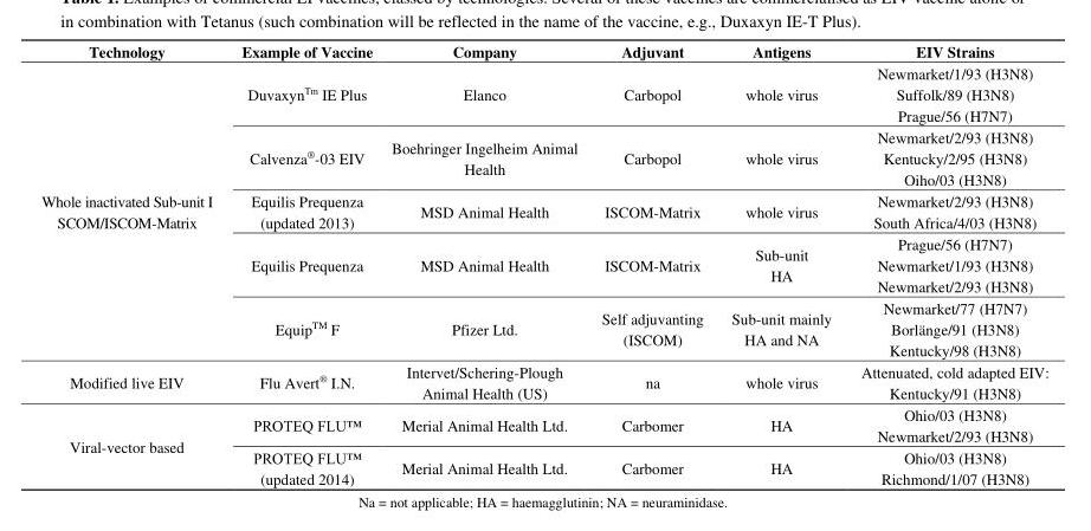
<table><thead><tr><td>Technology</td><td>Example of Vaccine</td><td>Company</td><td>Adjuvant</td><td>Antigens</td><td>EIV Strains</td></tr></thead><tbody><tr><td rowspan="5">Whole inactivated Sub-unit I SCOM/ISCOM-Matrix</td><td>Duvaxyn<sup>Tm</sup> IE Plus</td><td>Elanco</td><td>Carbopol</td><td>whole virus</td><td>Newmarket/1/93 (H3N8) Suffolk/89 (H3N8) Prague/56 (H7N7)</td></tr><tr><td>Calvenza<sup>®</sup>-03 EIV</td><td>Boehringer Ingelheim Animal Health</td><td>Carbopol</td><td>whole virus</td><td>Newmarket/2/93 (H3N8) Kentucky/2/95 (H3N8) Oiho/03 (H3N8)</td></tr><tr><td>Equilis Prequenza (updated 2013)</td><td>MSD Animal Health</td><td>ISCOM-Matrix</td><td>whole virus</td><td>Newmarket/2/93 (H3N8) South Africa/4/03 (H3N8)</td></tr><tr><td>Equilis Prequenza</td><td>MSD Animal Health</td><td>ISCOM-Matrix</td><td>Sub-unit HA</td><td>Prague/56 (H7N7) Newmarket/1/93 (H3N8) Newmarket/2/93 (H3N8)</td></tr><tr><td>Equip<sup>TM</sup> F</td><td>Pfizer Ltd.</td><td>Self adjuvanting (ISCOM)</td><td>Sub-unit mainly HA and NA</td><td>Newmarket/77 (H7N7) Borlänge/91 (H3N8) Kentucky/98 (H3N8)</td></tr><tr><td>Modified live EIV</td><td>Flu Avert<sup>®</sup> I.N.</td><td>Intervet/Schering-Plough Animal Health (US)</td><td>na</td><td>whole virus</td><td>Attenuated, cold adapted EIV: Kentucky/91 (H3N8)</td></tr><tr><td rowspan="2">Viral-vector based</td><td>PROTEQ FLU™</td><td>Merial Animal Health Ltd.</td><td>Carbomer</td><td>HA</td><td>Ohio/03 (H3N8) Newmarket/2/93 (H3N8)</td></tr><tr><td>PROTEQ FLU™ (updated 2014)</td><td>Merial Animal Health Ltd.</td><td>Carbomer</td><td>HA</td><td>Ohio/03 (H3N8) Richmond/1/07 (H3N8)</td></tr></tbody></table>